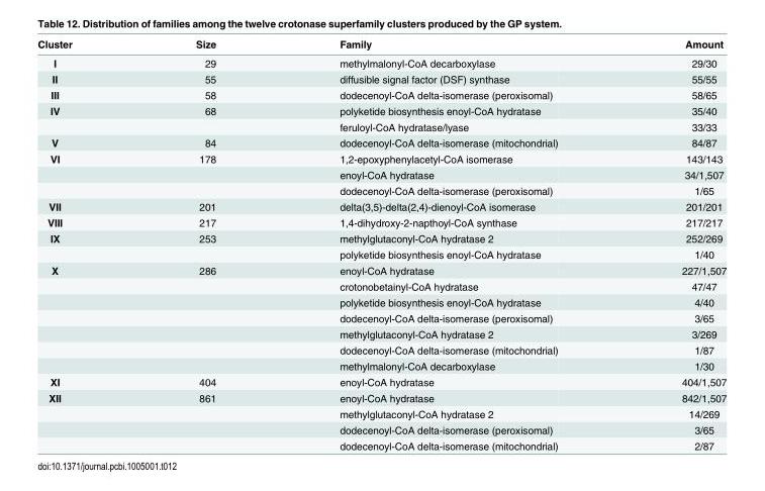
<table><thead><tr><td>Cluster</td><td>Size</td><td>Family</td><td>Amount</td></tr></thead><tbody><tr><td>I</td><td>29</td><td>methylmalonyl-CoA decarboxylase</td><td>29/30</td></tr><tr><td>II</td><td>55</td><td>diffusible signal factor (DSF) synthase</td><td>55/55</td></tr><tr><td>III</td><td>58</td><td>dodecenoyl-CoA delta-isomerase (peroxisomal)</td><td>58/65</td></tr><tr><td rowspan="2">IV</td><td>68</td><td>polyketide biosynthesis enoyl-CoA hydratase</td><td>35/40</td></tr><tr><td></td><td>feruloyl-CoA hydratase/lyase</td><td>33/33</td></tr><tr><td>V</td><td>84</td><td>dodecenoyl-CoA delta-isomerase (mitochondrial)</td><td>84/87</td></tr><tr><td rowspan="3">VI</td><td>178</td><td>1,2-epoxyphenylacetyl-CoA isomerase</td><td>143/143</td></tr><tr><td></td><td>enoyl-CoA hydratase</td><td>34/1,507</td></tr><tr><td></td><td>dodecenoyl-CoA delta-isomerase (peroxisomal)</td><td>1/65</td></tr><tr><td>VII</td><td>201</td><td>delta(3,5)-delta(2,4)-dienoyl-CoA isomerase</td><td>201/201</td></tr><tr><td>VIII</td><td>217</td><td>1,4-dihydroxy-2-napthoyl-CoA synthase</td><td>217/217</td></tr><tr><td rowspan="2">IX</td><td>253</td><td>methylglutaconyl-CoA hydratase 2</td><td>252/269</td></tr><tr><td></td><td>polyketide biosynthesis enoyl-CoA hydratase</td><td>1/40</td></tr><tr><td rowspan="7">X</td><td>286</td><td>enoyl-CoA hydratase</td><td>227/1,507</td></tr><tr><td></td><td>crotonobetainyl-CoA hydratase</td><td>47/47</td></tr><tr><td></td><td>polyketide biosynthesis enoyl-CoA hydratase</td><td>4/40</td></tr><tr><td></td><td>dodecenoyl-CoA delta-isomerase (peroxisomal)</td><td>3/65</td></tr><tr><td></td><td>methylglutaconyl-CoA hydratase 2</td><td>3/269</td></tr><tr><td></td><td>dodecenoyl-CoA delta-isomerase (mitochondrial)</td><td>1/87</td></tr><tr><td></td><td>methylmalonyl-CoA decarboxylase</td><td>1/30</td></tr><tr><td>XI</td><td>404</td><td>enoyl-CoA hydratase</td><td>404/1,507</td></tr><tr><td rowspan="4">XII</td><td>861</td><td>enoyl-CoA hydratase</td><td>842/1,507</td></tr><tr><td></td><td>methylglutaconyl-CoA hydratase 2</td><td>14/269</td></tr><tr><td></td><td>dodecenoyl-CoA delta-isomerase (peroxisomal)</td><td>3/65</td></tr><tr><td></td><td>dodecenoyl-CoA delta-isomerase (mitochondrial)</td><td>2/87</td></tr></tbody></table>